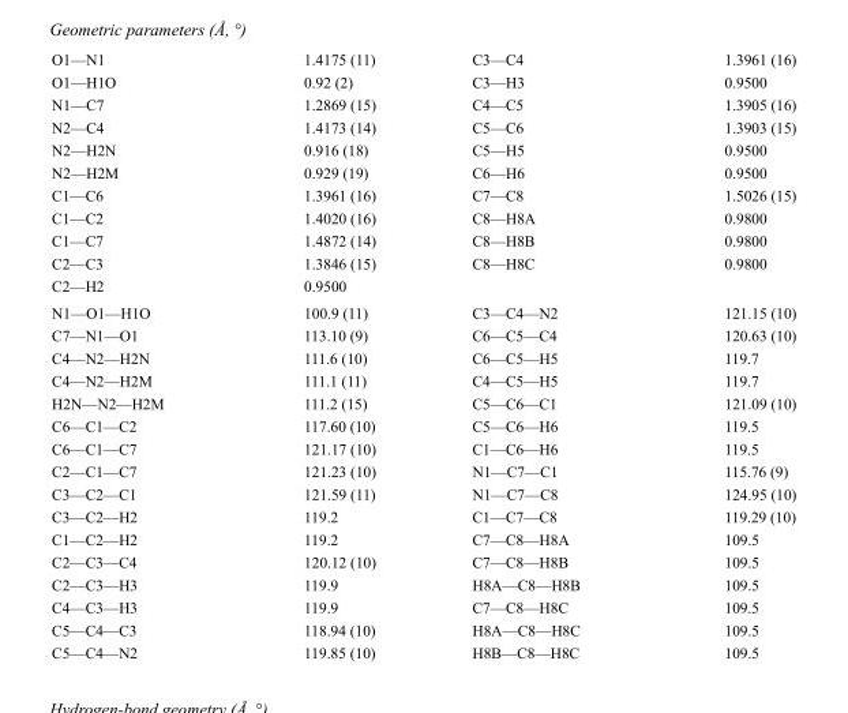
<table><tbody><tr><td>O1—N1</td><td>1.4175 (11)</td><td>C3—C4</td><td>1.3961 (16)</td></tr><tr><td>O1—H1O</td><td>0.92 (2)</td><td>C3—H3</td><td>0.9500</td></tr><tr><td>N1—C7</td><td>1.2869 (15)</td><td>C4—C5</td><td>1.3905 (16)</td></tr><tr><td>N2—C4</td><td>1.4173 (14)</td><td>C5—C6</td><td>1.3903 (15)</td></tr><tr><td>N2—H2N</td><td>0.916 (18)</td><td>C5—H5</td><td>0.9500</td></tr><tr><td>N2—H2M</td><td>0.929 (19)</td><td>C6—H6</td><td>0.9500</td></tr><tr><td>C1—C6</td><td>1.3961 (16)</td><td>C7—C8</td><td>1.5026 (15)</td></tr><tr><td>C1—C2</td><td>1.4020 (16)</td><td>C8—H8A</td><td>0.9800</td></tr><tr><td>C1—C7</td><td>1.4872 (14)</td><td>C8—H8B</td><td>0.9800</td></tr><tr><td>C2—C3</td><td>1.3846 (15)</td><td>C8—H8C</td><td>0.9800</td></tr><tr><td>C2—H2</td><td>0.9500</td><td></td><td></td></tr><tr><td>N1—O1—H1O</td><td>100.9 (11)</td><td>C3—C4—N2</td><td>121.15 (10)</td></tr><tr><td>C7—N1—O1</td><td>113.10 (9)</td><td>C6—C5—C4</td><td>120.63 (10)</td></tr><tr><td>C4—N2—H2N</td><td>111.6 (10)</td><td>C6—C5—H5</td><td>119.7</td></tr><tr><td>C4—N2—H2M</td><td>111.1 (11)</td><td>C4—C5—H5</td><td>119.7</td></tr><tr><td>H2N—N2—H2M</td><td>111.2 (15)</td><td>C5—C6—C1</td><td>121.09 (10)</td></tr><tr><td>C6—C1—C2</td><td>117.60 (10)</td><td>C5—C6—H6</td><td>119.5</td></tr><tr><td>C6—C1—C7</td><td>121.17 (10)</td><td>C1—C6—H6</td><td>119.5</td></tr><tr><td>C2—C1—C7</td><td>121.23 (10)</td><td>N1—C7—C1</td><td>115.76 (9)</td></tr><tr><td>C3—C2—C1</td><td>121.59 (11)</td><td>N1—C7—C8</td><td>124.95 (10)</td></tr><tr><td>C3—C2—H2</td><td>119.2</td><td>C1—C7—C8</td><td>119.29 (10)</td></tr><tr><td>C1—C2—H2</td><td>119.2</td><td>C7—C8—H8A</td><td>109.5</td></tr><tr><td>C2—C3—C4</td><td>120.12 (10)</td><td>C7—C8—H8B</td><td>109.5</td></tr><tr><td>C2—C3—H3</td><td>119.9</td><td>H8A—C8—H8B</td><td>109.5</td></tr><tr><td>C4—C3—H3</td><td>119.9</td><td>C7—C8—H8C</td><td>109.5</td></tr><tr><td>C5—C4—C3</td><td>118.94 (10)</td><td>H8A—C8—H8C</td><td>109.5</td></tr><tr><td>C5—C4—N2</td><td>119.85 (10)</td><td>H8B—C8—H8C</td><td>109.5</td></tr></tbody></table>